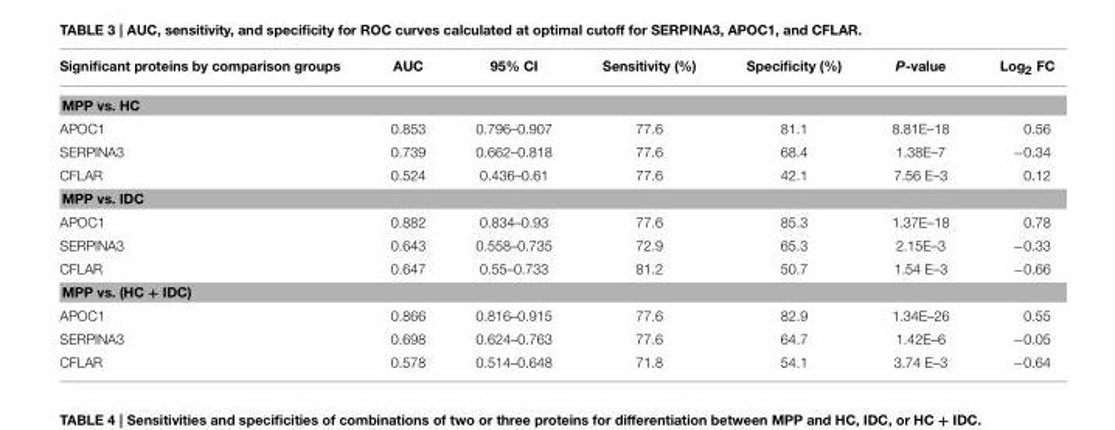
<table><thead><tr><td>Significant proteins by comparison groups</td><td>AUC</td><td>95% CI</td><td>Sensitivity (%)</td><td>Specificity (%)</td><td>P-value</td><td>Log<sub>2</sub> FC</td></tr></thead><tbody><tr><td colspan="7">MPP vs. HC</td></tr><tr><td>APOC1</td><td>0.853</td><td>0.796–0.907</td><td>77.6</td><td>81.1</td><td>8.81E–18</td><td>0.56</td></tr><tr><td>SERPINA3</td><td>0.739</td><td>0.662–0.818</td><td>77.6</td><td>68.4</td><td>1.38E–7</td><td>−0.34</td></tr><tr><td>CFLAR</td><td>0.524</td><td>0.436–0.61</td><td>77.6</td><td>42.1</td><td>7.56 E–3</td><td>0.12</td></tr><tr><td colspan="7">MPP vs. IDC</td></tr><tr><td>APOC1</td><td>0.882</td><td>0.834–0.93</td><td>77.6</td><td>85.3</td><td>1.37E–18</td><td>0.78</td></tr><tr><td>SERPINA3</td><td>0.643</td><td>0.558–0.735</td><td>72.9</td><td>65.3</td><td>2.15E–3</td><td>−0.33</td></tr><tr><td>CFLAR</td><td>0.647</td><td>0.55–0.733</td><td>81.2</td><td>50.7</td><td>1.54 E–3</td><td>−0.66</td></tr><tr><td colspan="7">MPP vs. (HC + IDC)</td></tr><tr><td>APOC1</td><td>0.866</td><td>0.816–0.915</td><td>77.6</td><td>82.9</td><td>1.34E–26</td><td>0.55</td></tr><tr><td>SERPINA3</td><td>0.698</td><td>0.624–0.763</td><td>77.6</td><td>64.7</td><td>1.42E–6</td><td>−0.05</td></tr><tr><td>CFLAR</td><td>0.578</td><td>0.514–0.648</td><td>71.8</td><td>54.1</td><td>3.74 E–3</td><td>−0.64</td></tr></tbody></table>